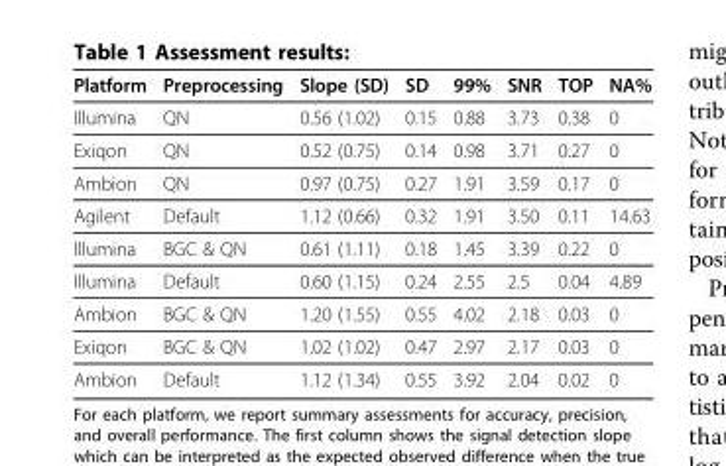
<table><thead><tr><td>Platform</td><td>Preprocessing</td><td>Slope (SD)</td><td>SD</td><td>99%</td><td>SNR</td><td>TOP</td><td>NA%</td></tr></thead><tbody><tr><td>Illumina</td><td>QN</td><td>0.56 (1.02)</td><td>0.15</td><td>0.88</td><td>3.73</td><td>0.38</td><td>0</td></tr><tr><td>Exiqon</td><td>QN</td><td>0.52 (0.75)</td><td>0.14</td><td>0.98</td><td>3.71</td><td>0.27</td><td>0</td></tr><tr><td>Ambion</td><td>QN</td><td>0.97 (0.75)</td><td>0.27</td><td>1.91</td><td>3.59</td><td>0.17</td><td>0</td></tr><tr><td>Agilent</td><td>Default</td><td>1.12 (0.66)</td><td>0.32</td><td>1.91</td><td>3.50</td><td>0.11</td><td>14.63</td></tr><tr><td>Illumina</td><td>BGC &amp; QN</td><td>0.61 (1.11)</td><td>0.18</td><td>1.45</td><td>3.39</td><td>0.22</td><td>0</td></tr><tr><td>Illumina</td><td>Default</td><td>0.60 (1.15)</td><td>0.24</td><td>2.55</td><td>2.5</td><td>0.04</td><td>4.89</td></tr><tr><td>Ambion</td><td>BGC &amp; QN</td><td>1.20 (1.55)</td><td>0.55</td><td>4.02</td><td>2.18</td><td>0.03</td><td>0</td></tr><tr><td>Exiqon</td><td>BGC &amp; QN</td><td>1.02 (1.02)</td><td>0.47</td><td>2.97</td><td>2.17</td><td>0.03</td><td>0</td></tr><tr><td>Ambion</td><td>Default</td><td>1.12 (1.34)</td><td>0.55</td><td>3.92</td><td>2.04</td><td>0.02</td><td>0</td></tr></tbody></table>